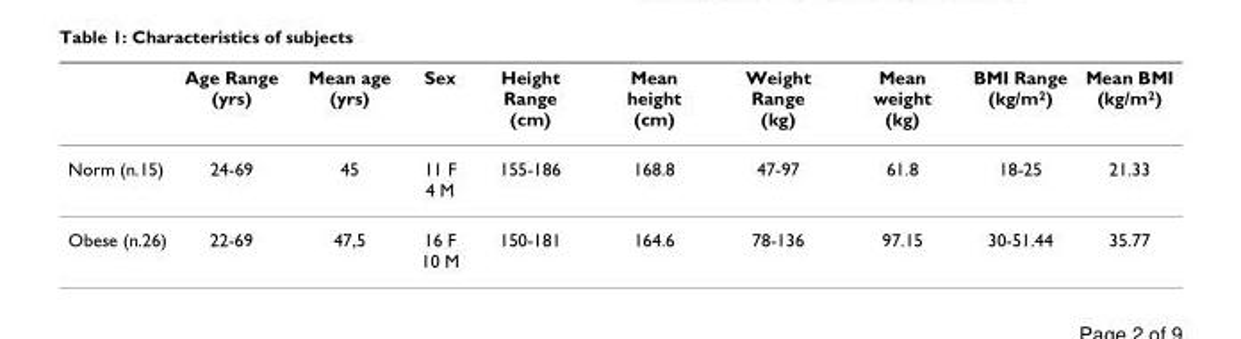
<table><thead><tr><td></td><td>Age Range (yrs)</td><td>Mean age (yrs)</td><td>Sex</td><td>Height Range (cm)</td><td>Mean height (cm)</td><td>Weight Range (kg)</td><td>Mean weight (kg)</td><td>BMI Range (kg/m<sup>2</sup>)</td><td>Mean BMI (kg/m<sup>2</sup>)</td></tr></thead><tbody><tr><td>Norm (n.15)</td><td>24-69</td><td>45</td><td>11 F 4 M</td><td>155-186</td><td>168.8</td><td>47-97</td><td>61.8</td><td>18-25</td><td>21.33</td></tr><tr><td>Obese (n.26)</td><td>22-69</td><td>47,5</td><td>16 F 10 M</td><td>150-181</td><td>164.6</td><td>78-136</td><td>97.15</td><td>30-51.44</td><td>35.77</td></tr></tbody></table>